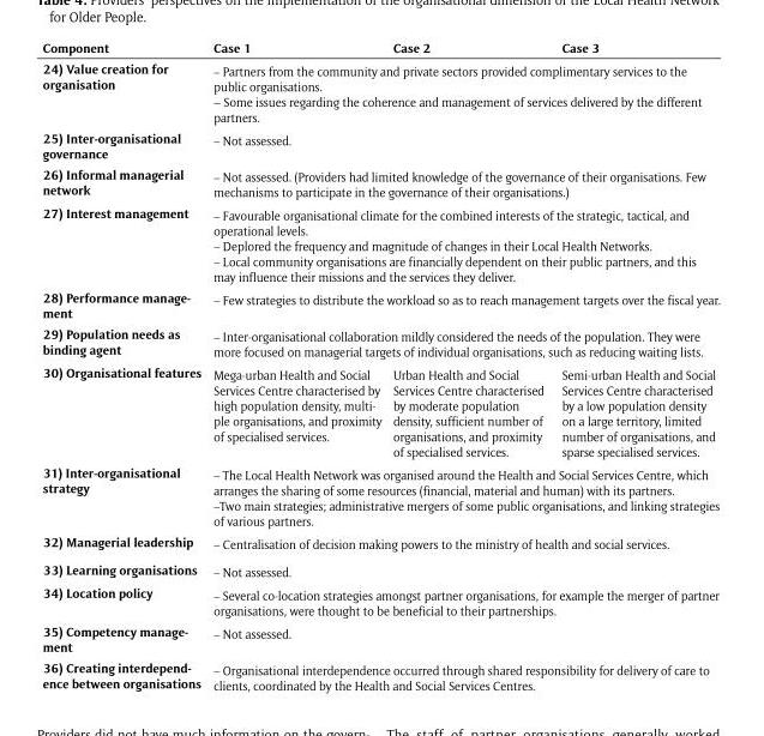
<table><thead><tr><td>Component</td><td>Case 1</td><td>Case 2</td><td>Case 3</td></tr></thead><tbody><tr><td>24) Value creation for organisation</td><td colspan="3">– Partners from the community and private sectors provided complimentary services to the public organisations. – Some issues regarding the coherence and management of services delivered by the different partners.</td></tr><tr><td>25) Inter-organisational governance</td><td colspan="3">– Not assessed.</td></tr><tr><td>26) Informal managerial network</td><td colspan="3">– Not assessed. (Providers had limited knowledge of the governance of their organisations. Few mechanisms to participate in the governance of their organisations.)</td></tr><tr><td>27) Interest management</td><td colspan="3">– Favourable organisational climate for the combined interests of the strategic, tactical, and operational levels. – Deplored the frequency and magnitude of changes in their Local Health Networks. – Local community organisations are financially dependent on their public partners, and this may influence their missions and the services they deliver.</td></tr><tr><td>28) Performance manage- ment</td><td colspan="3">– Few strategies to distribute the workload so as to reach management targets over the fiscal year.</td></tr><tr><td>29) Population needs as binding agent</td><td colspan="3">– Inter-organisational collaboration mildly considered the needs of the population. They were more focused on managerial targets of individual organisations, such as reducing waiting lists.</td></tr><tr><td>30) Organisational features</td><td>Mega-urban Health and Social Services Centre characterised by high population density, multi- ple organisations, and proximity of specialised services.</td><td>Urban Health and Social Services Centre characterised by moderate population density, sufficient number of organisations, and proximity of specialised services.</td><td>Semi-urban Health and Social Services Centre characterised by a low population density on a large territory, limited number of organisations, and sparse specialised services.</td></tr><tr><td>31) Inter-organisational strategy</td><td colspan="3">– The Local Health Network was organised around the Health and Social Services Centre, which arranges the sharing of some resources (financial, material and human) with its partners. –Two main strategies; administrative mergers of some public organisations, and linking strategies of various partners.</td></tr><tr><td>32) Managerial leadership</td><td colspan="3">– Centralisation of decision making powers to the ministry of health and social services.</td></tr><tr><td>33) Learning organisations</td><td colspan="3">– Not assessed.</td></tr><tr><td>34) Location policy</td><td colspan="3">– Several co-location strategies amongst partner organisations, for example the merger of partner organisations, were thought to be beneficial to their partnerships.</td></tr><tr><td>35) Competency manage- ment</td><td colspan="3">– Not assessed.</td></tr><tr><td>36) Creating interdepend- ence between organisations</td><td colspan="3">– Organisational interdependence occurred through shared responsibility for delivery of care to clients, coordinated by the Health and Social Services Centres.</td></tr></tbody></table>